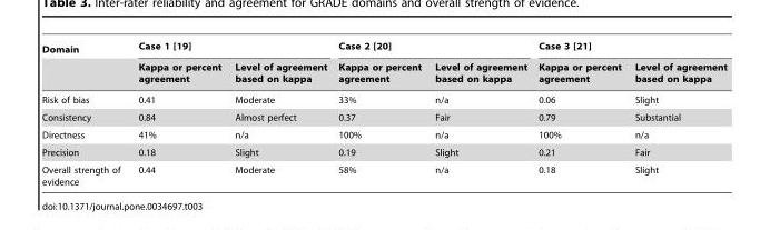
<table><thead><tr><td rowspan="2">Domain</td><td colspan="2">Case 1 [19]</td><td colspan="2">Case 2 [20]</td><td colspan="2">Case 3 [21]</td></tr><tr><td>Kappa or percent agreement</td><td>Level of agreement based on kappa</td><td>Kappa or percent agreement</td><td>Level of agreement based on kappa</td><td>Kappa or percent agreement</td><td>Level of agreement based on kappa</td></tr></thead><tbody><tr><td>Risk of bias</td><td>0.41</td><td>Moderate</td><td>33%</td><td>n/a</td><td>0.06</td><td>Slight</td></tr><tr><td>Consistency</td><td>0.84</td><td>Almost perfect</td><td>0.37</td><td>Fair</td><td>0.79</td><td>Substantial</td></tr><tr><td>Directness</td><td>41%</td><td>n/a</td><td>100%</td><td>n/a</td><td>100%</td><td>n/a</td></tr><tr><td>Precision</td><td>0.18</td><td>Slight</td><td>0.19</td><td>Slight</td><td>0.21</td><td>Fair</td></tr><tr><td>Overall strength of evidence</td><td>0.44</td><td>Moderate</td><td>58%</td><td>n/a</td><td>0.18</td><td>Slight</td></tr></tbody></table>